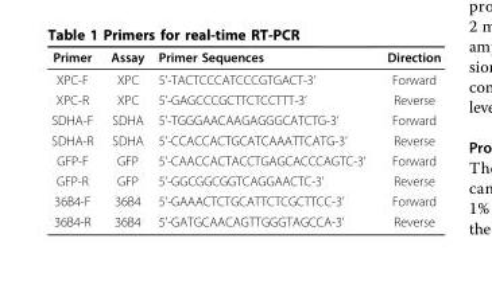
<table><thead><tr><td>Primer</td><td>Assay</td><td>Primer Sequences</td><td>Direction</td></tr></thead><tbody><tr><td>XPC-F</td><td>XPC</td><td>5’-TACTCCCATCCCGTGACT-3’</td><td>Forward</td></tr><tr><td>XPC-R</td><td>XPC</td><td>5’-GAGCCCGCTTCTCCTTT-3’</td><td>Reverse</td></tr><tr><td>SDHA-F</td><td>SDHA</td><td>5’-TGGGAACAAGAGGGCATCTG-3’</td><td>Forward</td></tr><tr><td>SDHA-R</td><td>SDHA</td><td>5’-CCACCACTGCATCAAATTCATG-3’</td><td>Reverse</td></tr><tr><td>GFP-F</td><td>GFP</td><td>5’-CAACCACTACCTGAGCACCCAGTC-3’</td><td>Forward</td></tr><tr><td>GFP-R</td><td>GFP</td><td>5’-GGCGGCGGTCAGGAACTC-3’</td><td>Reverse</td></tr><tr><td>36B4-F</td><td>36B4</td><td>5’-GAAACTCTGCATTCTCGCTTCC-3’</td><td>Forward</td></tr><tr><td>36B4-R</td><td>36B4</td><td>5’-GATGCAACAGTTGGGTAGCCA-3’</td><td>Reverse</td></tr></tbody></table>